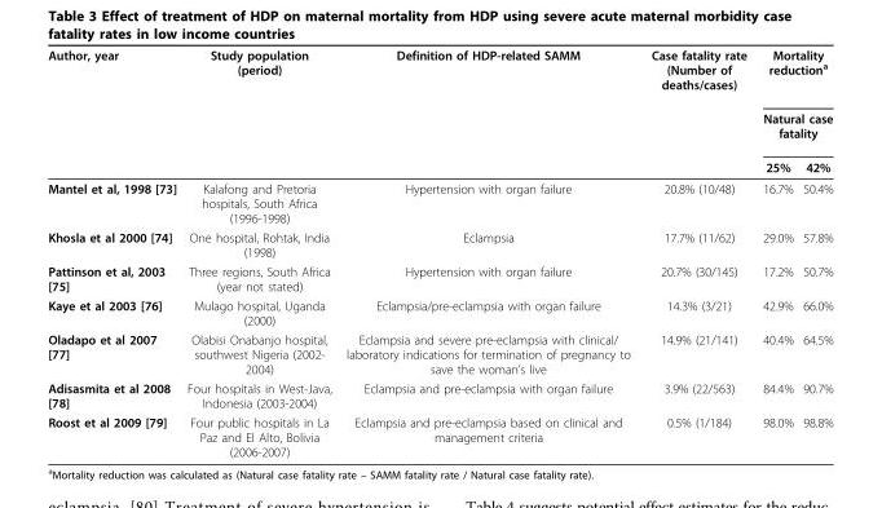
<table><thead><tr><td rowspan="3">Author, year</td><td rowspan="3">Study population (period)</td><td rowspan="3">Definition of HDP-related SAMM</td><td rowspan="3">Case fatality rate (Number of deaths/cases)</td><td rowspan="2" colspan="2">Mortality reduction<sup>a</sup> Natural case fatality</td></tr><tr></tr><tr><td>25%</td><td>42%</td></tr></thead><tbody><tr><td>Mantel et al, 1998 [73]</td><td>Kalafong and Pretoria hospitals, South Africa (1996-1998)</td><td>Hypertension with organ failure</td><td>20.8% (10/48)</td><td>16.7%</td><td>50.4%</td></tr><tr><td>Khosla et al 2000 [74]</td><td>One hospital, Rohtak, India (1998)</td><td>Eclampsia</td><td>17.7% (11/62)</td><td>29.0%</td><td>57.8%</td></tr><tr><td>Pattinson et al, 2003 [75]</td><td>Three regions, South Africa (year not stated)</td><td>Hypertension with organ failure</td><td>20.7% (30/145)</td><td>17.2%</td><td>50.7%</td></tr><tr><td>Kaye et al 2003 [76]</td><td>Mulago hospital, Uganda (2000)</td><td>Eclampsia/pre-eclampsia with organ failure</td><td>14.3% (3/21)</td><td>42.9%</td><td>66.0%</td></tr><tr><td>Oladapo et al 2007 [77]</td><td>Olabisi Onabanjo hospital, southwest Nigeria (2002- 2004)</td><td>Eclampsia and severe pre-eclampsia with clinical/ laboratory indications for termination of pregnancy to save the woman’s live</td><td>14.9% (21/141)</td><td>40.4%</td><td>64.5%</td></tr><tr><td>Adisasmita et al 2008 [78]</td><td>Four hospitals in West-Java, Indonesia (2003-2004)</td><td>Eclampsia and pre-eclampsia with organ failure</td><td>3.9% (22/563)</td><td>84.4%</td><td>90.7%</td></tr><tr><td>Roost et al 2009 [79]</td><td>Four public hospitals in La Paz and El Alto, Bolivia (2006-2007)</td><td>Eclampsia and pre-eclampsia based on clinical and management criteria</td><td>0.5% (1/184)</td><td>98.0%</td><td>98.8%</td></tr></tbody></table>